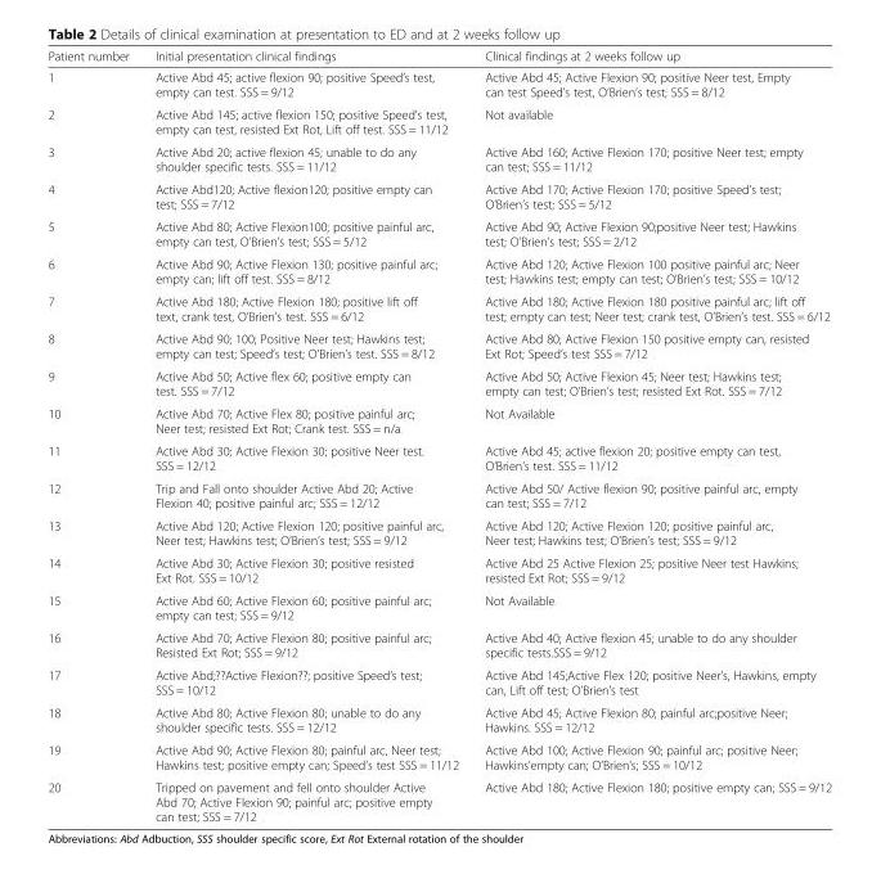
<table><thead><tr><td>Patient number</td><td>Initial presentation clinical findings</td><td>Clinical findings at 2 weeks follow up</td></tr></thead><tbody><tr><td>1</td><td>Active Abd 45; active flexion 90; positive Speed’s test, empty can test. SSS = 9/12</td><td>Active Abd 45; Active Flexion 90; positive Neer test, Empty can test Speed’s test, O’Brien’s test; SSS = 8/12</td></tr><tr><td>2</td><td>Active Abd 145; active flexion 150; positive Speed’s test, empty can test, resisted Ext Rot, Lift off test. SSS = 11/12</td><td>Not available</td></tr><tr><td>3</td><td>Active Abd 20; active flexion 45; unable to do any shoulder specific tests. SSS = 11/12</td><td>Active Abd 160; Active Flexion 170; positive Neer test; empty can test; SSS = 11/12</td></tr><tr><td>4</td><td>Active Abd120; Active flexion120; positive empty can test; SSS = 7/12</td><td>Active Abd 170; Active Flexion 170; positive Speed’s test; O’Brien’s test; SSS = 5/12</td></tr><tr><td>5</td><td>Active Abd 80; Active Flexion100; positive painful arc, empty can test, O’Brien’s test; SSS = 5/12</td><td>Active Abd 90; Active Flexion 90;positive Neer test; Hawkins test; O’Brien’s test; SSS = 2/12</td></tr><tr><td>6</td><td>Active Abd 90; Active Flexion 130; positive painful arc; empty can; lift off test. SSS = 8/12</td><td>Active Abd 120; Active Flexion 100 positive painful arc; Neer test; Hawkins test; empty can test; O’Brien’s test; SSS = 10/12</td></tr><tr><td>7</td><td>Active Abd 180; Active Flexion 180; positive lift off text, crank test, O’Brien’s test. SSS = 6/12</td><td>Active Abd 180; Active Flexion 180 positive painful arc; lift off test; empty can test; Neer test; crank test, O’Brien’s test. SSS = 6/12</td></tr><tr><td>8</td><td>Active Abd 90; 100; Positive Neer test; Hawkins test; empty can test; Speed’s test; O’Brien’s test. SSS = 8/12</td><td>Active Abd 80; Active Flexion 150 positive empty can, resisted Ext Rot; Speed’s test SSS = 7/12</td></tr><tr><td>9</td><td>Active Abd 50; Active flex 60; positive empty can test. SSS = 7/12</td><td>Active Abd 50; Active Flexion 45; Neer test; Hawkins test; empty can test; O’Brien’s test; resisted Ext Rot. SSS = 7/12</td></tr><tr><td>10</td><td>Active Abd 70; Active Flex 80; positive painful arc; Neer test; resisted Ext Rot; Crank test. SSS = n/a</td><td>Not Available</td></tr><tr><td>11</td><td>Active Abd 30; Active Flexion 30; positive Neer test. SSS = 12/12</td><td>Active Abd 45; active flexion 20; positive empty can test, O’Brien’s test. SSS = 11/12</td></tr><tr><td>12</td><td>Trip and Fall onto shoulder Active Abd 20; Active Flexion 40; positive painful arc; SSS = 12/12</td><td>Active Abd 50/ Active flexion 90; positive painful arc, empty can test; SSS = 7/12</td></tr><tr><td>13</td><td>Active Abd 120; Active Flexion 120; positive painful arc, Neer test; Hawkins test; O’Brien’s test; SSS = 9/12</td><td>Active Abd 120; Active Flexion 120; positive painful arc, Neer test; Hawkins test; O’Brien’s test; SSS = 9/12</td></tr><tr><td>14</td><td>Active Abd 30; Active Flexion 30; positive resisted Ext Rot. SSS = 10/12</td><td>Active Abd 25 Active Flexion 25; positive Neer test Hawkins; resisted Ext Rot; SSS = 9/12</td></tr><tr><td>15</td><td>Active Abd 60; Active Flexion 60; positive painful arc; empty can test; SSS = 9/12</td><td>Not Available</td></tr><tr><td>16</td><td>Active Abd 70; Active Flexion 80; positive painful arc; Resisted Ext Rot; SSS = 9/12</td><td>Active Abd 40; Active flexion 45; unable to do any shoulder specific tests.SSS = 9/12</td></tr><tr><td>17</td><td>Active Abd;??Active Flexion??; positive Speed’s test; SSS = 10/12</td><td>Active Abd 145;Active Flex 120; positive Neer’s, Hawkins, empty can, Lift off test; O’Brien’s test</td></tr><tr><td>18</td><td>Active Abd 80; Active Flexion 80; unable to do any shoulder specific tests. SSS = 12/12</td><td>Active Abd 45; Active Flexion 80; painful arc;positive Neer; Hawkins. SSS = 12/12</td></tr><tr><td>19</td><td>Active Abd 90; Active Flexion 80; painful arc, Neer test; Hawkins test; positive empty can; Speed’s test SSS = 11/12</td><td>Active Abd 100; Active Flexion 90; painful arc; positive Neer; Hawkins’empty can; O’Brien’s; SSS = 10/12</td></tr><tr><td>20</td><td>Tripped on pavement and fell onto shoulder Active Abd 70; Active Flexion 90; painful arc; positive empty can test; SSS = 7/12</td><td>Active Abd 180; Active Flexion 180; positive empty can; SSS = 9/12</td></tr></tbody></table>